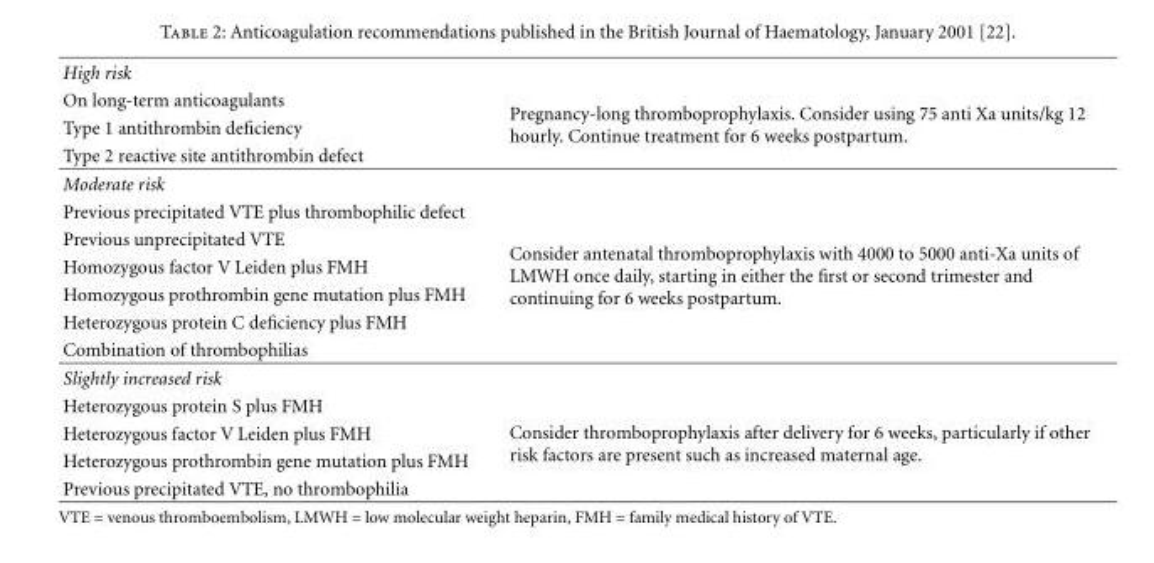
<table><tbody><tr><td colspan="2">High risk</td></tr><tr><td>On long-term anticoagulants</td><td rowspan="3">Pregnancy-long thromboprophylaxis. Consider using 75 anti Xa units/kg 12 hourly. Continue treatment for 6 weeks postpartum.</td></tr><tr><td>Type 1 antithrombin deficiency</td></tr><tr><td>Type 2 reactive site antithrombin defect</td></tr><tr><td colspan="2">Moderate risk</td></tr><tr><td>Previous precipitated VTE plus thrombophilic defect</td><td rowspan="6">Consider antenatal thromboprophylaxis with 4000 to 5000 anti-Xa units of LMWH once daily, starting in either the first or second trimester and continuing for 6 weeks postpartum.</td></tr><tr><td>Previous unprecipitated VTE</td></tr><tr><td>Homozygous factor V Leiden plus FMH</td></tr><tr><td>Homozygous prothrombin gene mutation plus FMH</td></tr><tr><td>Heterozygous protein C deficiency plus FMH</td></tr><tr><td>Combination of thrombophilias</td></tr><tr><td colspan="2">Slightly increased risk</td></tr><tr><td>Heterozygous protein S plus FMH</td><td rowspan="4">Consider thromboprophylaxis after delivery for 6 weeks, particularly if other risk factors are present such as increased maternal age.</td></tr><tr><td>Heterozygous factor V Leiden plus FMH</td></tr><tr><td>Heterozygous prothrombin gene mutation plus FMH</td></tr><tr><td>Previous precipitated VTE, no thrombophilia</td></tr></tbody></table>